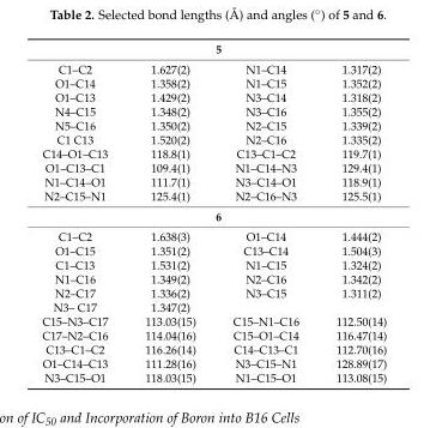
<table><thead><tr><td colspan="4">5</td></tr><tr><td>C1–C2</td><td>1.627(2)</td><td>N1–C14</td><td>1.317(2)</td></tr></thead><tbody><tr><td>O1–C14</td><td>1.358(2)</td><td>N1–C15</td><td>1.352(2)</td></tr><tr><td>O1–C13</td><td>1.429(2)</td><td>N3–C14</td><td>1.318(2)</td></tr><tr><td>N4–C15</td><td>1.348(2)</td><td>N3–C16</td><td>1.355(2)</td></tr><tr><td>N5–C16</td><td>1.350(2)</td><td>N2–C15</td><td>1.339(2)</td></tr><tr><td>C1 C13</td><td>1.520(2)</td><td>N2–C16</td><td>1.335(2)</td></tr><tr><td>C14–O1–C13</td><td>118.8(1)</td><td>C13–C1–C2</td><td>119.7(1)</td></tr><tr><td>O1–C13–C1</td><td>109.4(1)</td><td>N1–C14–N3</td><td>129.4(1)</td></tr><tr><td>N1–C14–O1</td><td>111.7(1)</td><td>N3–C14–O1</td><td>118.9(1)</td></tr><tr><td>N2–C15–N1</td><td>125.4(1)</td><td>N2–C16–N3</td><td>125.5(1)</td></tr><tr><td colspan="4">6</td></tr><tr><td>C1–C2</td><td>1.638(3)</td><td>O1–C14</td><td>1.444(2)</td></tr><tr><td>O1–C15</td><td>1.351(2)</td><td>C13–C14</td><td>1.504(3)</td></tr><tr><td>C1–C13</td><td>1.531(2)</td><td>N1–C15</td><td>1.324(2)</td></tr><tr><td>N1–C16</td><td>1.349(2)</td><td>N2–C16</td><td>1.342(2)</td></tr><tr><td>N2–C17</td><td>1.336(2)</td><td>N3–C15</td><td>1.311(2)</td></tr><tr><td>N3– C17</td><td>1.347(2)</td><td></td><td></td></tr><tr><td>C15–N3–C17</td><td>113.03(15)</td><td>C15–N1–C16</td><td>112.50(14)</td></tr><tr><td>C17–N2–C16</td><td>114.04(16)</td><td>C15–O1–C14</td><td>116.47(14)</td></tr><tr><td>C13–C1–C2</td><td>116.26(14)</td><td>C14–C13–C1</td><td>112.70(16)</td></tr><tr><td>O1–C14–C13</td><td>111.28(16)</td><td>N3–C15–N1</td><td>128.89(17)</td></tr><tr><td>N3–C15–O1</td><td>118.03(15)</td><td>N1–C15–O1</td><td>113.08(15)</td></tr></tbody></table>